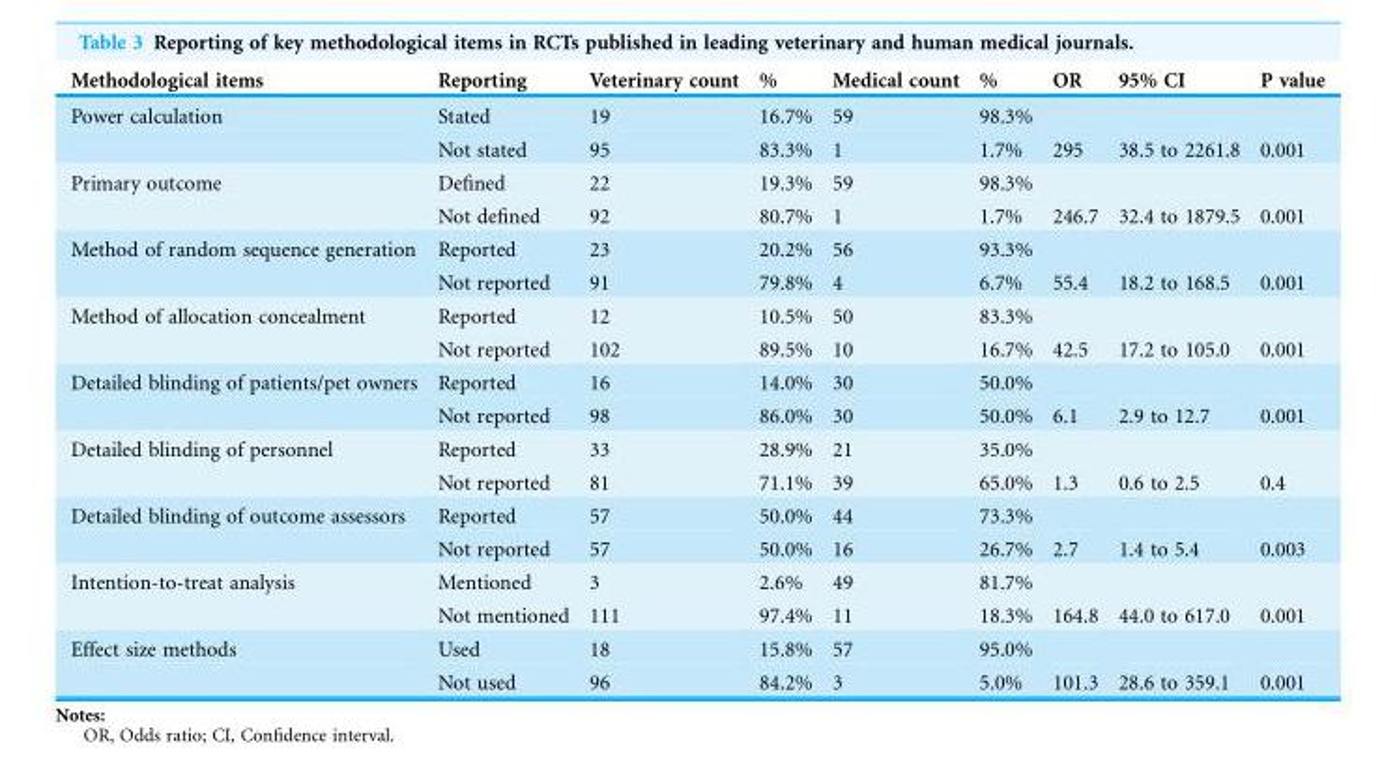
<table><thead><tr><td>Methodological items</td><td>Reporting</td><td>Veterinary count</td><td>%</td><td>Medical count</td><td>%</td><td>OR</td><td>95% CI</td><td>P value</td></tr></thead><tbody><tr><td rowspan="2">Power calculation</td><td>Stated</td><td>19</td><td>16.7%</td><td>59</td><td>98.3%</td><td></td><td></td><td></td></tr><tr><td>Not stated</td><td>95</td><td>83.3%</td><td>1</td><td>1.7%</td><td>295</td><td>38.5 to 2261.8</td><td>0.001</td></tr><tr><td rowspan="2">Primary outcome</td><td>Defined</td><td>22</td><td>19.3%</td><td>59</td><td>98.3%</td><td></td><td></td><td></td></tr><tr><td>Not defined</td><td>92</td><td>80.7%</td><td>1</td><td>1.7%</td><td>246.7</td><td>32.4 to 1879.5</td><td>0.001</td></tr><tr><td rowspan="2">Method of random sequence generation</td><td>Reported</td><td>23</td><td>20.2%</td><td>56</td><td>93.3%</td><td></td><td></td><td></td></tr><tr><td>Not reported</td><td>91</td><td>79.8%</td><td>4</td><td>6.7%</td><td>55.4</td><td>18.2 to 168.5</td><td>0.001</td></tr><tr><td rowspan="2">Method of allocation concealment</td><td>Reported</td><td>12</td><td>10.5%</td><td>50</td><td>83.3%</td><td></td><td></td><td></td></tr><tr><td>Not reported</td><td>102</td><td>89.5%</td><td>10</td><td>16.7%</td><td>42.5</td><td>17.2 to 105.0</td><td>0.001</td></tr><tr><td rowspan="2">Detailed blinding of patients/pet owners</td><td>Reported</td><td>16</td><td>14.0%</td><td>30</td><td>50.0%</td><td></td><td></td><td></td></tr><tr><td>Not reported</td><td>98</td><td>86.0%</td><td>30</td><td>50.0%</td><td>6.1</td><td>2.9 to 12.7</td><td>0.001</td></tr><tr><td rowspan="2">Detailed blinding of personnel</td><td>Reported</td><td>33</td><td>28.9%</td><td>21</td><td>35.0%</td><td></td><td></td><td></td></tr><tr><td>Not reported</td><td>81</td><td>71.1%</td><td>39</td><td>65.0%</td><td>1.3</td><td>0.6 to 2.5</td><td>0.4</td></tr><tr><td rowspan="2">Detailed blinding of outcome assessors</td><td>Reported</td><td>57</td><td>50.0%</td><td>44</td><td>73.3%</td><td></td><td></td><td></td></tr><tr><td>Not reported</td><td>57</td><td>50.0%</td><td>16</td><td>26.7%</td><td>2.7</td><td>1.4 to 5.4</td><td>0.003</td></tr><tr><td rowspan="2">Intention-to-treat analysis</td><td>Mentioned</td><td>3</td><td>2.6%</td><td>49</td><td>81.7%</td><td></td><td></td><td></td></tr><tr><td>Not mentioned</td><td>111</td><td>97.4%</td><td>11</td><td>18.3%</td><td>164.8</td><td>44.0 to 617.0</td><td>0.001</td></tr><tr><td rowspan="2">Effect size methods</td><td>Used</td><td>18</td><td>15.8%</td><td>57</td><td>95.0%</td><td></td><td></td><td></td></tr><tr><td>Not used</td><td>96</td><td>84.2%</td><td>3</td><td>5.0%</td><td>101.3</td><td>28.6 to 359.1</td><td>0.001</td></tr></tbody></table>